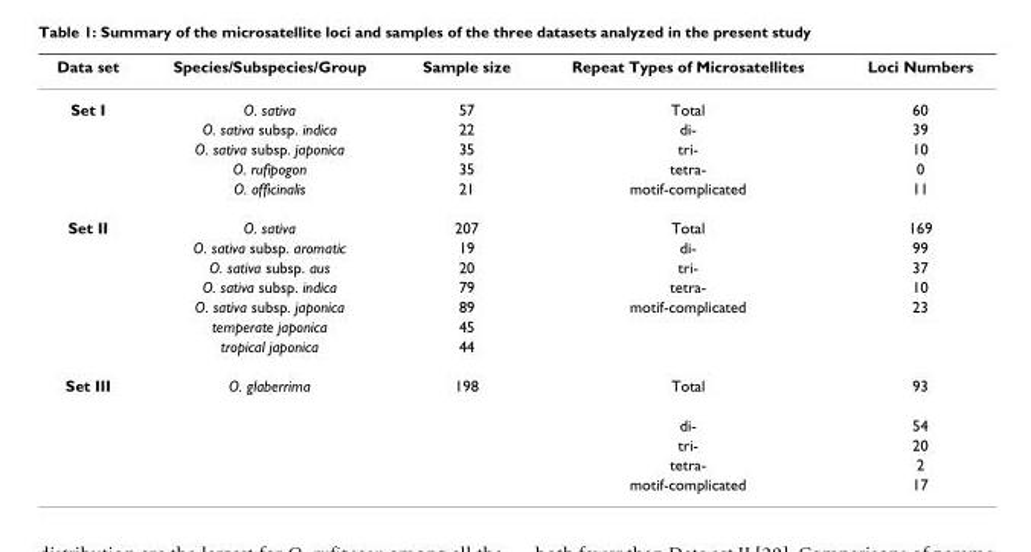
<table><thead><tr><td>Data set</td><td>Species/Subspecies/Group</td><td>Sample size</td><td>Repeat Types of Microsatellites</td><td>Loci Numbers</td></tr></thead><tbody><tr><td rowspan="5">Set I</td><td>O. sativa</td><td>57</td><td>Total</td><td>60</td></tr><tr><td>O. sativa subsp. indica</td><td>22</td><td>di-</td><td>39</td></tr><tr><td>O. sativa subsp. japonica</td><td>35</td><td>tri-</td><td>10</td></tr><tr><td>O. rufipogon</td><td>35</td><td>tetra-</td><td>0</td></tr><tr><td>O. officinalis</td><td>21</td><td>motif-complicated</td><td>11</td></tr><tr><td rowspan="7">Set II</td><td>O. sativa</td><td>207</td><td>Total</td><td>169</td></tr><tr><td>O. sativa subsp. aromatic</td><td>19</td><td>di-</td><td>99</td></tr><tr><td>O. sativa subsp. aus</td><td>20</td><td>tri-</td><td>37</td></tr><tr><td>O. sativa subsp. indica</td><td>79</td><td>tetra-</td><td>10</td></tr><tr><td>O. sativa subsp. japonica</td><td>89</td><td>motif-complicated</td><td>23</td></tr><tr><td>temperate japonica</td><td>45</td><td></td><td></td></tr><tr><td>tropical japonica</td><td>44</td><td></td><td></td></tr><tr><td rowspan="5">Set III</td><td>O. glaberrima</td><td>198</td><td>Total</td><td>93</td></tr><tr><td></td><td></td><td>di-</td><td>54</td></tr><tr><td></td><td></td><td>tri-</td><td>20</td></tr><tr><td></td><td></td><td>tetra-</td><td>2</td></tr><tr><td></td><td></td><td>motif-complicated</td><td>17</td></tr></tbody></table>